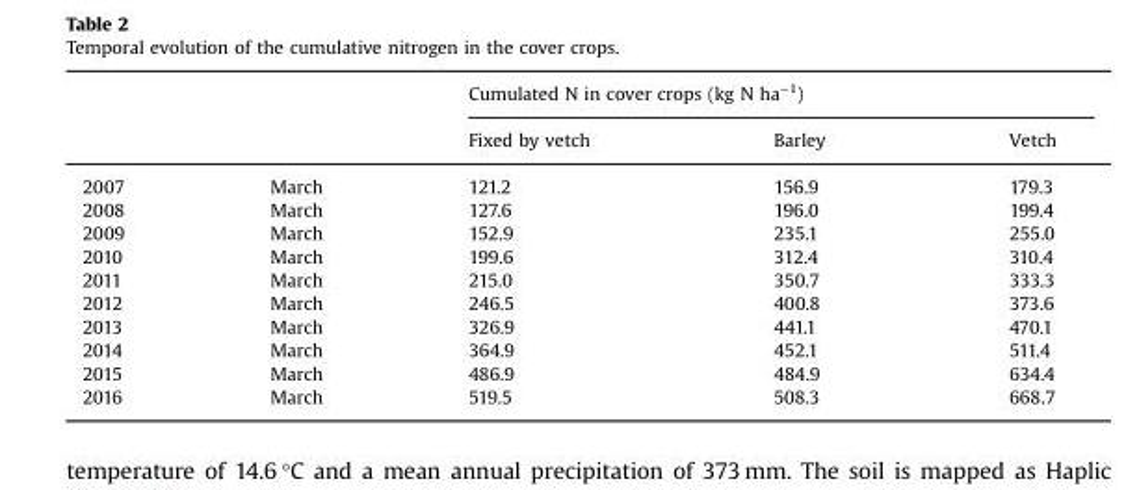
<table><thead><tr><td rowspan="2"></td><td rowspan="2"></td><td colspan="3">Cumulated N in cover crops (kg N ha<sup>−1</sup>)</td></tr><tr><td>Fixed by vetch</td><td>Barley</td><td>Vetch</td></tr></thead><tbody><tr><td>2007</td><td>March</td><td>121.2</td><td>156.9</td><td>179.3</td></tr><tr><td>2008</td><td>March</td><td>127.6</td><td>196.0</td><td>199.4</td></tr><tr><td>2009</td><td>March</td><td>152.9</td><td>235.1</td><td>255.0</td></tr><tr><td>2010</td><td>March</td><td>199.6</td><td>312.4</td><td>310.4</td></tr><tr><td>2011</td><td>March</td><td>215.0</td><td>350.7</td><td>333.3</td></tr><tr><td>2012</td><td>March</td><td>246.5</td><td>400.8</td><td>373.6</td></tr><tr><td>2013</td><td>March</td><td>326.9</td><td>441.1</td><td>470.1</td></tr><tr><td>2014</td><td>March</td><td>364.9</td><td>452.1</td><td>511.4</td></tr><tr><td>2015</td><td>March</td><td>486.9</td><td>484.9</td><td>634.4</td></tr><tr><td>2016</td><td>March</td><td>519.5</td><td>508.3</td><td>668.7</td></tr></tbody></table>